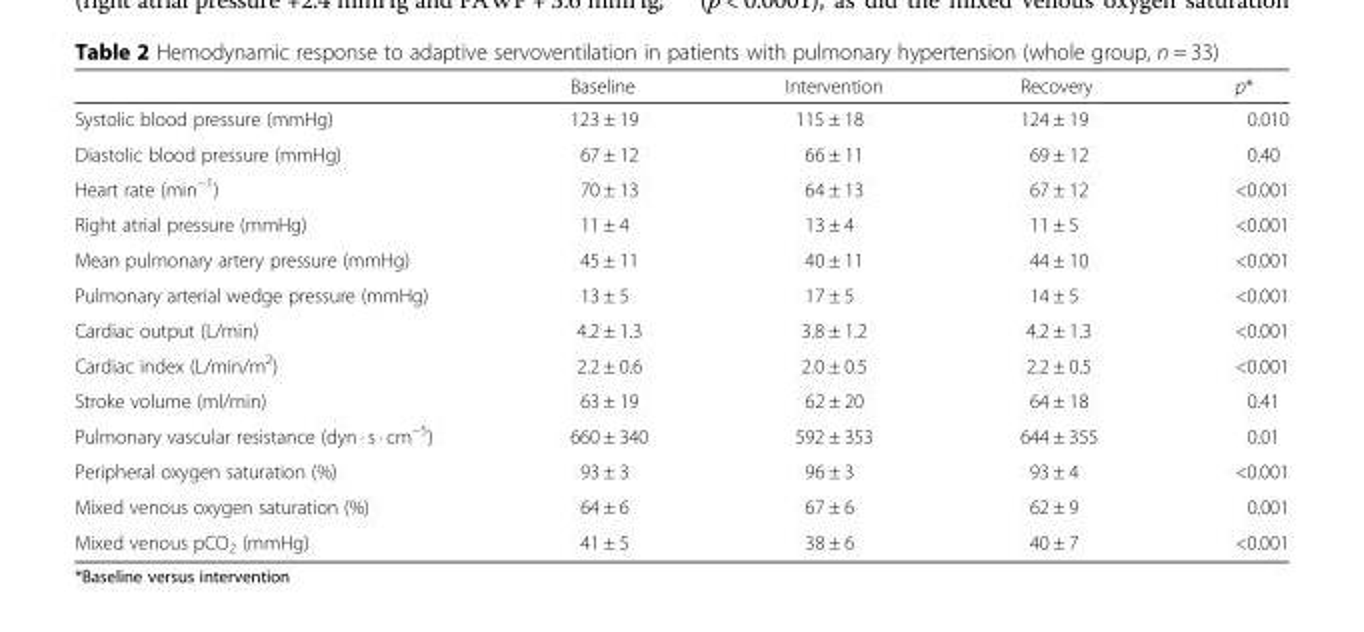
<table><thead><tr><td></td><td>Baseline</td><td>Intervention</td><td>Recovery</td><td>p*</td></tr></thead><tbody><tr><td>Systolic blood pressure (mmHg)</td><td>123 ± 19</td><td>115 ± 18</td><td>124 ± 19</td><td>0.010</td></tr><tr><td>Diastolic blood pressure (mmHg)</td><td>67 ± 12</td><td>66 ± 11</td><td>69 ± 12</td><td>0.40</td></tr><tr><td>Heart rate (min<sup>−1</sup>)</td><td>70 ± 13</td><td>64 ± 13</td><td>67 ± 12</td><td>&lt;0.001</td></tr><tr><td>Right atrial pressure (mmHg)</td><td>11 ± 4</td><td>13 ± 4</td><td>11 ± 5</td><td>&lt;0.001</td></tr><tr><td>Mean pulmonary artery pressure (mmHg)</td><td>45 ± 11</td><td>40 ± 11</td><td>44 ± 10</td><td>&lt;0.001</td></tr><tr><td>Pulmonary arterial wedge pressure (mmHg)</td><td>13 ± 5</td><td>17 ± 5</td><td>14 ± 5</td><td>&lt;0.001</td></tr><tr><td>Cardiac output (L/min)</td><td>4.2 ± 1.3</td><td>3.8 ± 1.2</td><td>4.2 ± 1.3</td><td>&lt;0.001</td></tr><tr><td>Cardiac index (L/min/m<sup>2</sup>)</td><td>2.2 ± 0.6</td><td>2.0 ± 0.5</td><td>2.2 ± 0.5</td><td>&lt;0.001</td></tr><tr><td>Stroke volume (ml/min)</td><td>63 ± 19</td><td>62 ± 20</td><td>64 ± 18</td><td>0.41</td></tr><tr><td>Pulmonary vascular resistance (dyn · s · cm<sup>−5</sup>)</td><td>660 ± 340</td><td>592 ± 353</td><td>644 ± 355</td><td>0.01</td></tr><tr><td>Peripheral oxygen saturation (%)</td><td>93 ± 3</td><td>96 ± 3</td><td>93 ± 4</td><td>&lt;0.001</td></tr><tr><td>Mixed venous oxygen saturation (%)</td><td>64 ± 6</td><td>67 ± 6</td><td>62 ± 9</td><td>0.001</td></tr><tr><td>Mixed venous pCO<sub>2</sub> (mmHg)</td><td>41 ± 5</td><td>38 ± 6</td><td>40 ± 7</td><td>&lt;0.001</td></tr></tbody></table>